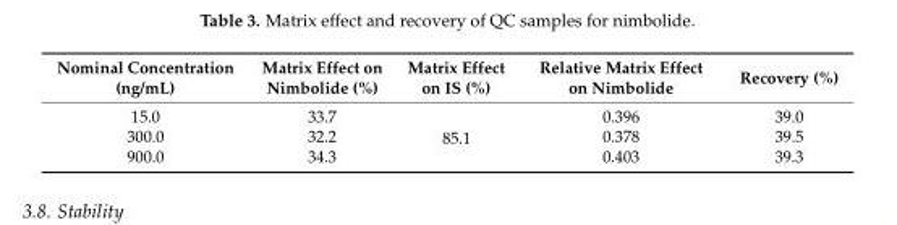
<table><thead><tr><td>Nominal Concentration (ng/mL)</td><td>Matrix Effect on Nimbolide (%)</td><td>Matrix Effect on IS (%)</td><td>Relative Matrix Effect on Nimbolide</td><td>Recovery (%)</td></tr></thead><tbody><tr><td>15.0</td><td>33.7</td><td rowspan="3">85.1</td><td>0.396</td><td>39.0</td></tr><tr><td>300.0</td><td>32.2</td><td>0.378</td><td>39.5</td></tr><tr><td>900.0</td><td>34.3</td><td>0.403</td><td>39.3</td></tr></tbody></table>